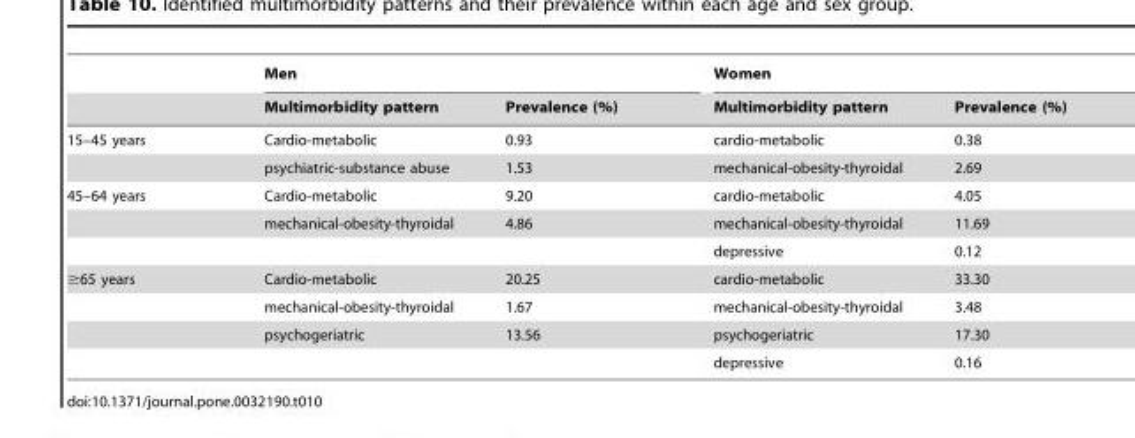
<table><thead><tr><td rowspan="2"></td><td colspan="2">Men</td><td colspan="2">Women</td></tr><tr><td>Multimorbidity pattern</td><td>Prevalence (%)</td><td>Multimorbidity pattern</td><td>Prevalence (%)</td></tr></thead><tbody><tr><td rowspan="2">15–45 years</td><td>Cardio-metabolic</td><td>0.93</td><td>cardio-metabolic</td><td>0.38</td></tr><tr><td>psychiatric-substance abuse</td><td>1.53</td><td>mechanical-obesity-thyroidal</td><td>2.69</td></tr><tr><td rowspan="3">45–64 years</td><td>Cardio-metabolic</td><td>9.20</td><td>cardio-metabolic</td><td>4.05</td></tr><tr><td>mechanical-obesity-thyroidal</td><td>4.86</td><td>mechanical-obesity-thyroidal</td><td>11.69</td></tr><tr><td></td><td></td><td>depressive</td><td>0.12</td></tr><tr><td rowspan="4">≥65 years</td><td>Cardio-metabolic</td><td>20.25</td><td>cardio-metabolic</td><td>33.30</td></tr><tr><td>mechanical-obesity-thyroidal</td><td>1.67</td><td>mechanical-obesity-thyroidal</td><td>3.48</td></tr><tr><td>psychogeriatric</td><td>13.56</td><td>psychogeriatric</td><td>17.30</td></tr><tr><td></td><td></td><td>depressive</td><td>0.16</td></tr></tbody></table>